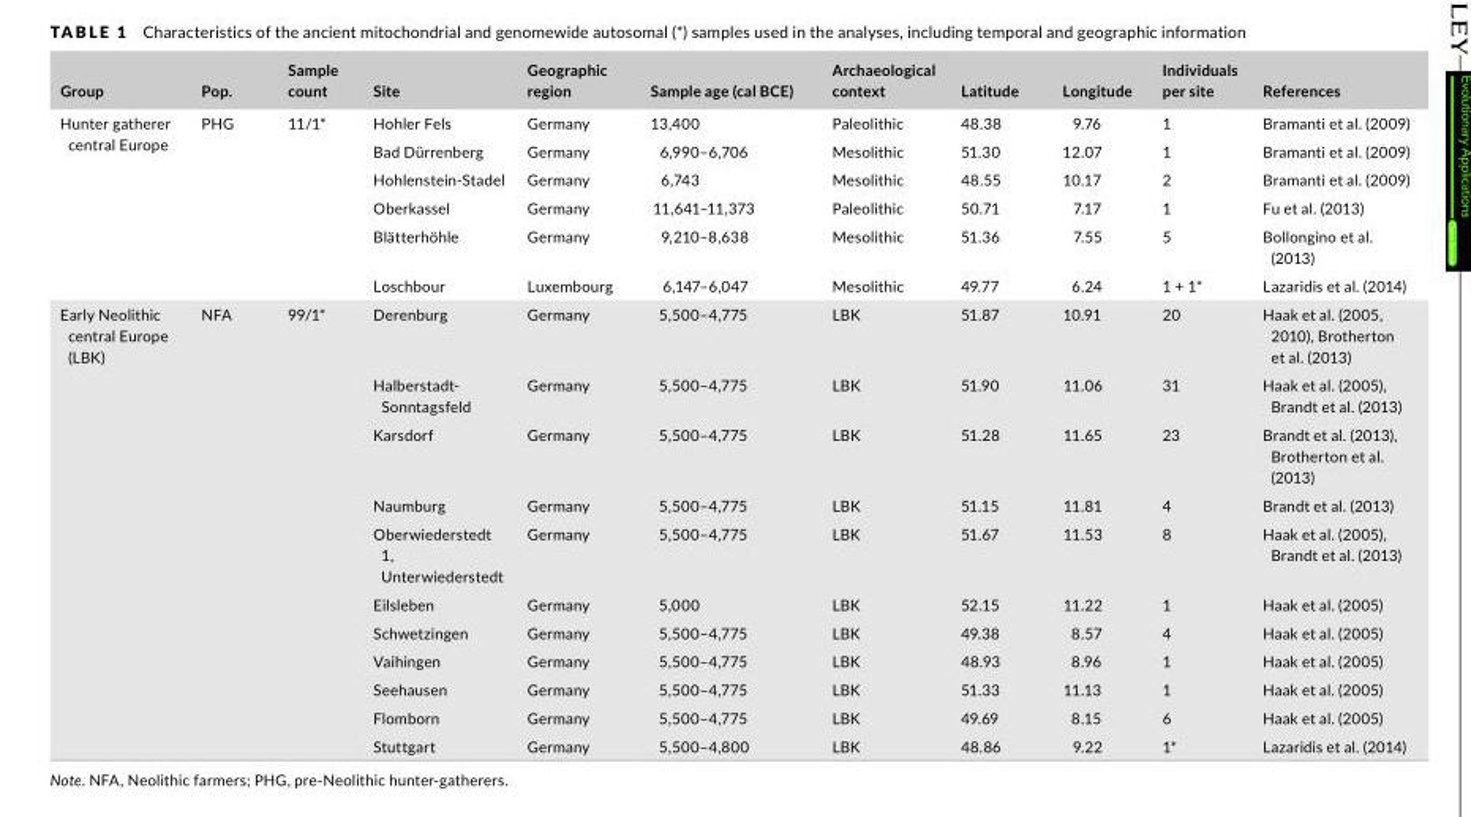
<table><thead><tr><td>Group</td><td>Pop.</td><td>Sample count</td><td>Site</td><td>Geographic region</td><td>Sample age (cal BCE)</td><td>Archaeological context</td><td>Latitude</td><td>Longitude</td><td>Individuals per site</td><td>References</td></tr></thead><tbody><tr><td rowspan="6">Hunter gatherer central Europe</td><td rowspan="6">PHG</td><td rowspan="6">11/1*</td><td>Hohler Fels</td><td>Germany</td><td>13,400</td><td>Paleolithic</td><td>48.38</td><td>9.76</td><td>1</td><td>Bramanti et al. (2009)</td></tr><tr><td>Bad Dürrenberg</td><td>Germany</td><td>6,990–6,706</td><td>Mesolithic</td><td>51.30</td><td>12.07</td><td>1</td><td>Bramanti et al. (2009)</td></tr><tr><td>Hohlenstein- Stadel</td><td>Germany</td><td>6,743</td><td>Mesolithic</td><td>48.55</td><td>10.17</td><td>2</td><td>Bramanti et al. (2009)</td></tr><tr><td>Oberkassel</td><td>Germany</td><td>11,641–11,373</td><td>Paleolithic</td><td>50.71</td><td>7.17</td><td>1</td><td>Fu et al. (2013)</td></tr><tr><td>Blätterhöhle</td><td>Germany</td><td>9,210–8,638</td><td>Mesolithic</td><td>51.36</td><td>7.55</td><td>5</td><td>Bollongino et al. (2013)</td></tr><tr><td>Loschbour</td><td>Luxembourg</td><td>6,147–6,047</td><td>Mesolithic</td><td>49.77</td><td>6.24</td><td>1 + 1*</td><td>Lazaridis et al. (2014)</td></tr><tr><td rowspan="11">Early Neolithic central Europe (LBK)</td><td rowspan="11">NFA</td><td rowspan="11">99/1*</td><td>Derenburg</td><td>Germany</td><td>5,500–4,775</td><td>LBK</td><td>51.87</td><td>10.91</td><td>20</td><td>Haak et al. (2005, 2010), Brotherton et al. (2013)</td></tr><tr><td>Halberstadt- Sonntagsfeld</td><td>Germany</td><td>5,500–4,775</td><td>LBK</td><td>51.90</td><td>11.06</td><td>31</td><td>Haak et al. (2005), Brandt et al. (2013)</td></tr><tr><td>Karsdorf</td><td>Germany</td><td>5,500–4,775</td><td>LBK</td><td>51.28</td><td>11.65</td><td>23</td><td>Brandt et al. (2013), Brotherton et al. (2013)</td></tr><tr><td>Naumburg</td><td>Germany</td><td>5,500–4,775</td><td>LBK</td><td>51.15</td><td>11.81</td><td>4</td><td>Brandt et al. (2013)</td></tr><tr><td>Oberwiederstedt 1, Unterwiederstedt</td><td>Germany</td><td>5,500–4,775</td><td>LBK</td><td>51.67</td><td>11.53</td><td>8</td><td>Haak et al. (2005), Brandt et al. (2013)</td></tr><tr><td>Eilsleben</td><td>Germany</td><td>5,000</td><td>LBK</td><td>52.15</td><td>11.22</td><td>1</td><td>Haak et al. (2005)</td></tr><tr><td>Schwetzingen</td><td>Germany</td><td>5,500–4,775</td><td>LBK</td><td>49.38</td><td>8.57</td><td>4</td><td>Haak et al. (2005)</td></tr><tr><td>Vaihingen</td><td>Germany</td><td>5,500–4,775</td><td>LBK</td><td>48.93</td><td>8.96</td><td>1</td><td>Haak et al. (2005)</td></tr><tr><td>Seehausen</td><td>Germany</td><td>5,500–4,775</td><td>LBK</td><td>51.33</td><td>11.13</td><td>1</td><td>Haak et al. (2005)</td></tr><tr><td>Flomborn</td><td>Germany</td><td>5,500–4,775</td><td>LBK</td><td>49.69</td><td>8.15</td><td>6</td><td>Haak et al. (2005)</td></tr><tr><td>Stuttgart</td><td>Germany</td><td>5,500–4,800</td><td>LBK</td><td>48.86</td><td>9.22</td><td>1*</td><td>Lazaridis et al. (2014)</td></tr></tbody></table>